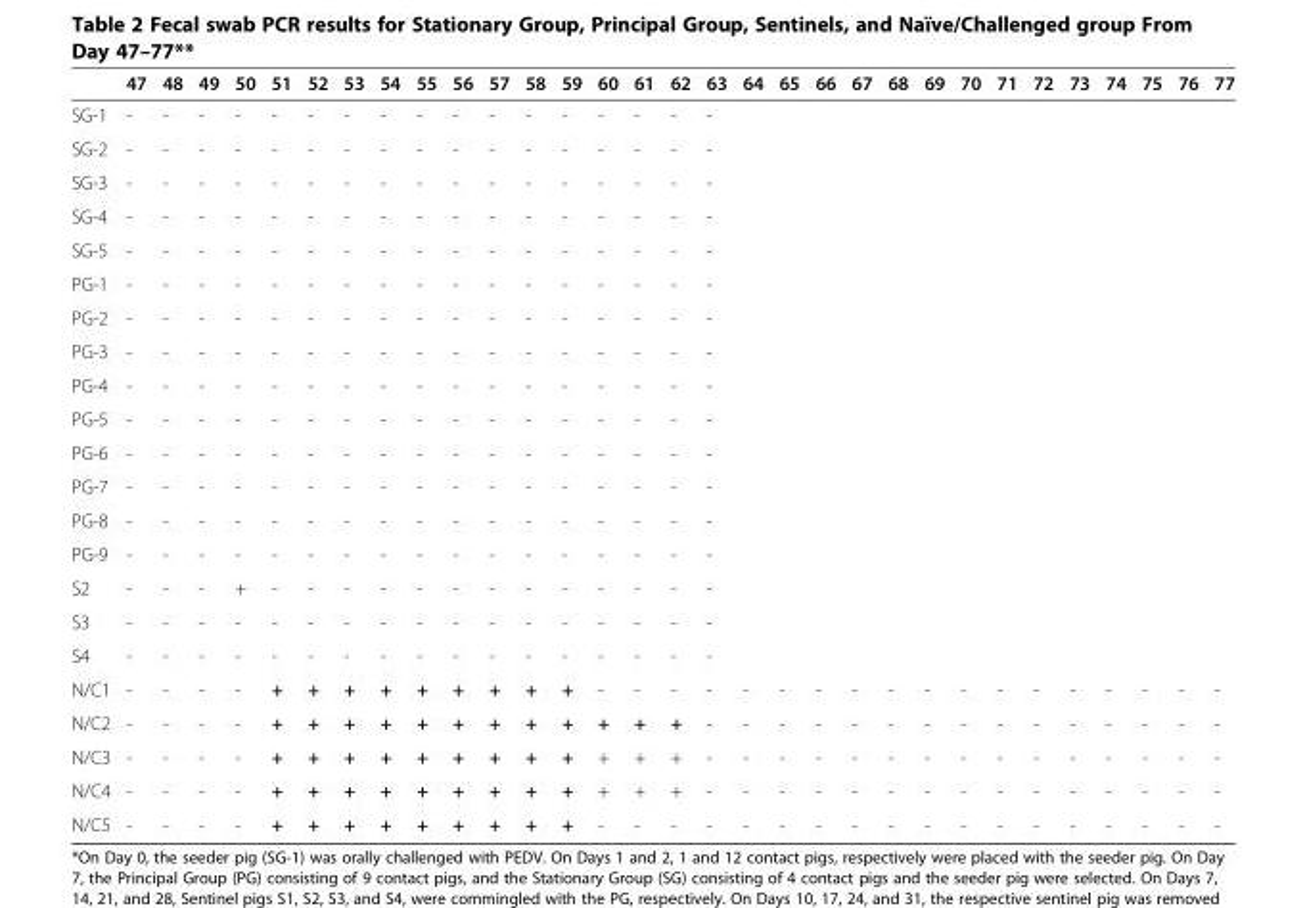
<table><thead><tr><td></td><td>47</td><td>48</td><td>49</td><td>50</td><td>51</td><td>52</td><td>53</td><td>54</td><td>55</td><td>56</td><td>57</td><td>58</td><td>59</td><td>60</td><td>61</td><td>62</td><td>63</td><td>64</td><td>65</td><td>66</td><td>67</td><td>68</td><td>69</td><td>70</td><td>71</td><td>72</td><td>73</td><td>74</td><td>75</td><td>76</td><td>77</td></tr></thead><tbody><tr><td>SG-1</td><td>-</td><td>-</td><td>-</td><td>-</td><td>-</td><td>-</td><td>-</td><td>-</td><td>-</td><td>-</td><td>-</td><td>-</td><td>-</td><td>-</td><td>-</td><td>-</td><td>-</td><td></td><td></td><td></td><td></td><td></td><td></td><td></td><td></td><td></td><td></td><td></td><td></td><td></td><td></td></tr><tr><td>SG-2</td><td>-</td><td>-</td><td>-</td><td>-</td><td>-</td><td>-</td><td>-</td><td>-</td><td>-</td><td>-</td><td>-</td><td>-</td><td>-</td><td>-</td><td>-</td><td>-</td><td>-</td><td></td><td></td><td></td><td></td><td></td><td></td><td></td><td></td><td></td><td></td><td></td><td></td><td></td><td></td></tr><tr><td>SG-3</td><td>-</td><td>-</td><td>-</td><td>-</td><td>-</td><td>-</td><td>-</td><td>-</td><td>-</td><td>-</td><td>-</td><td>-</td><td>-</td><td>-</td><td>-</td><td>-</td><td>-</td><td></td><td></td><td></td><td></td><td></td><td></td><td></td><td></td><td></td><td></td><td></td><td></td><td></td><td></td></tr><tr><td>SG-4</td><td>-</td><td>-</td><td>-</td><td>-</td><td>-</td><td>-</td><td>-</td><td>-</td><td>-</td><td>-</td><td>-</td><td>-</td><td>-</td><td>-</td><td>-</td><td>-</td><td>-</td><td></td><td></td><td></td><td></td><td></td><td></td><td></td><td></td><td></td><td></td><td></td><td></td><td></td><td></td></tr><tr><td>SG-5</td><td>-</td><td>-</td><td>-</td><td>-</td><td>-</td><td>-</td><td>-</td><td>-</td><td>-</td><td>-</td><td>-</td><td>-</td><td>-</td><td>-</td><td>-</td><td>-</td><td>-</td><td></td><td></td><td></td><td></td><td></td><td></td><td></td><td></td><td></td><td></td><td></td><td></td><td></td><td></td></tr><tr><td>PG-1</td><td>-</td><td>-</td><td>-</td><td>-</td><td>-</td><td>-</td><td>-</td><td>-</td><td>-</td><td>-</td><td>-</td><td>-</td><td>-</td><td>-</td><td>-</td><td>-</td><td>-</td><td></td><td></td><td></td><td></td><td></td><td></td><td></td><td></td><td></td><td></td><td></td><td></td><td></td><td></td></tr><tr><td>PG-2</td><td>-</td><td>-</td><td>-</td><td>-</td><td>-</td><td>-</td><td>-</td><td>-</td><td>-</td><td>-</td><td>-</td><td>-</td><td>-</td><td>-</td><td>-</td><td>-</td><td>-</td><td></td><td></td><td></td><td></td><td></td><td></td><td></td><td></td><td></td><td></td><td></td><td></td><td></td><td></td></tr><tr><td>PG-3</td><td>-</td><td>-</td><td>-</td><td>-</td><td>-</td><td>-</td><td>-</td><td>-</td><td>-</td><td>-</td><td>-</td><td>-</td><td>-</td><td>-</td><td>-</td><td>-</td><td>-</td><td></td><td></td><td></td><td></td><td></td><td></td><td></td><td></td><td></td><td></td><td></td><td></td><td></td><td></td></tr><tr><td>PG-4</td><td>-</td><td>-</td><td>-</td><td>-</td><td>-</td><td>-</td><td>-</td><td>-</td><td>-</td><td>-</td><td>-</td><td>-</td><td>-</td><td>-</td><td>-</td><td>-</td><td>-</td><td></td><td></td><td></td><td></td><td></td><td></td><td></td><td></td><td></td><td></td><td></td><td></td><td></td><td></td></tr><tr><td>PG-5</td><td>-</td><td>-</td><td>-</td><td>-</td><td>-</td><td>-</td><td>-</td><td>-</td><td>-</td><td>-</td><td>-</td><td>-</td><td>-</td><td>-</td><td>-</td><td>-</td><td>-</td><td></td><td></td><td></td><td></td><td></td><td></td><td></td><td></td><td></td><td></td><td></td><td></td><td></td><td></td></tr><tr><td>PG-6</td><td>-</td><td>-</td><td>-</td><td>-</td><td>-</td><td>-</td><td>-</td><td>-</td><td>-</td><td>-</td><td>-</td><td>-</td><td>-</td><td>-</td><td>-</td><td>-</td><td>-</td><td></td><td></td><td></td><td></td><td></td><td></td><td></td><td></td><td></td><td></td><td></td><td></td><td></td><td></td></tr><tr><td>PG-7</td><td>-</td><td>-</td><td>-</td><td>-</td><td>-</td><td>-</td><td>-</td><td>-</td><td>-</td><td>-</td><td>-</td><td>-</td><td>-</td><td>-</td><td>-</td><td>-</td><td>-</td><td></td><td></td><td></td><td></td><td></td><td></td><td></td><td></td><td></td><td></td><td></td><td></td><td></td><td></td></tr><tr><td>PG-8</td><td>-</td><td>-</td><td>-</td><td>-</td><td>-</td><td>-</td><td>-</td><td>-</td><td>-</td><td>-</td><td>-</td><td>-</td><td>-</td><td>-</td><td>-</td><td>-</td><td>-</td><td></td><td></td><td></td><td></td><td></td><td></td><td></td><td></td><td></td><td></td><td></td><td></td><td></td><td></td></tr><tr><td>PG-9</td><td>-</td><td>-</td><td>-</td><td>-</td><td>-</td><td>-</td><td>-</td><td>-</td><td>-</td><td>-</td><td>-</td><td>-</td><td>-</td><td>-</td><td>-</td><td>-</td><td>-</td><td></td><td></td><td></td><td></td><td></td><td></td><td></td><td></td><td></td><td></td><td></td><td></td><td></td><td></td></tr><tr><td>S2</td><td>-</td><td>-</td><td>-</td><td>+</td><td>-</td><td>-</td><td>-</td><td>-</td><td>-</td><td>-</td><td>-</td><td>-</td><td>-</td><td>-</td><td>-</td><td>-</td><td>-</td><td></td><td></td><td></td><td></td><td></td><td></td><td></td><td></td><td></td><td></td><td></td><td></td><td></td><td></td></tr><tr><td>S3</td><td>-</td><td>-</td><td>-</td><td>-</td><td>-</td><td>-</td><td>-</td><td>-</td><td>-</td><td>-</td><td>-</td><td>-</td><td>-</td><td>-</td><td>-</td><td>-</td><td>-</td><td></td><td></td><td></td><td></td><td></td><td></td><td></td><td></td><td></td><td></td><td></td><td></td><td></td><td></td></tr><tr><td>S4</td><td>-</td><td>-</td><td>-</td><td>-</td><td>-</td><td>-</td><td>-</td><td>-</td><td>-</td><td>-</td><td>-</td><td>-</td><td>-</td><td>-</td><td>-</td><td>-</td><td>-</td><td></td><td></td><td></td><td></td><td></td><td></td><td></td><td></td><td></td><td></td><td></td><td></td><td></td><td></td></tr><tr><td>N/C1</td><td>-</td><td>-</td><td>-</td><td>-</td><td>+</td><td>+</td><td>+</td><td>+</td><td>+</td><td>+</td><td>+</td><td>+</td><td>+</td><td>-</td><td>-</td><td>-</td><td>-</td><td>-</td><td>-</td><td>-</td><td>-</td><td>-</td><td>-</td><td>-</td><td>-</td><td>-</td><td>-</td><td>-</td><td>-</td><td>-</td><td>-</td></tr><tr><td>N/C2</td><td>-</td><td>-</td><td>-</td><td>-</td><td>+</td><td>+</td><td>+</td><td>+</td><td>+</td><td>+</td><td>+</td><td>+</td><td>+</td><td>+</td><td>+</td><td>+</td><td>-</td><td>-</td><td>-</td><td>-</td><td>-</td><td>-</td><td>-</td><td>-</td><td>-</td><td>-</td><td>-</td><td>-</td><td>-</td><td>-</td><td>-</td></tr><tr><td>N/C3</td><td>-</td><td>-</td><td>-</td><td>-</td><td>+</td><td>+</td><td>+</td><td>+</td><td>+</td><td>+</td><td>+</td><td>+</td><td>+</td><td>+</td><td>+</td><td>+</td><td>-</td><td>-</td><td>-</td><td>-</td><td>-</td><td>-</td><td>-</td><td>-</td><td>-</td><td>-</td><td>-</td><td>-</td><td>-</td><td>-</td><td>-</td></tr><tr><td>N/C4</td><td>-</td><td>-</td><td>-</td><td>-</td><td>+</td><td>+</td><td>+</td><td>+</td><td>+</td><td>+</td><td>+</td><td>+</td><td>+</td><td>+</td><td>+</td><td>+</td><td>-</td><td>-</td><td>-</td><td>-</td><td>-</td><td>-</td><td>-</td><td>-</td><td>-</td><td>-</td><td>-</td><td>-</td><td>-</td><td>-</td><td>-</td></tr><tr><td>N/C5</td><td>-</td><td>-</td><td>-</td><td>-</td><td>+</td><td>+</td><td>+</td><td>+</td><td>+</td><td>+</td><td>+</td><td>+</td><td>+</td><td>-</td><td>-</td><td>-</td><td>-</td><td>-</td><td>-</td><td>-</td><td>-</td><td>-</td><td>-</td><td>-</td><td>-</td><td>-</td><td>-</td><td>-</td><td>-</td><td>-</td><td>-</td></tr></tbody></table>